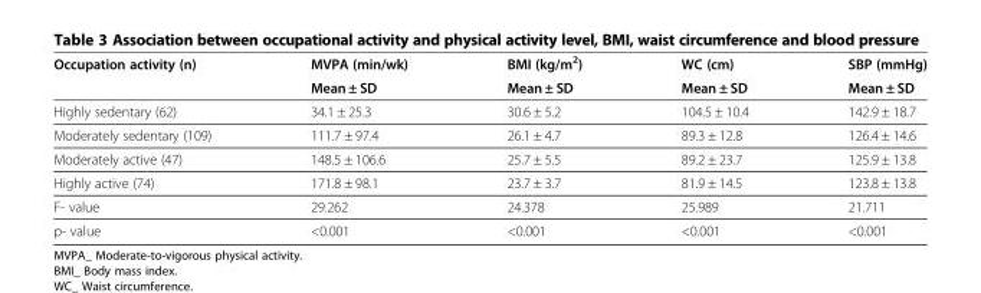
<table><thead><tr><td rowspan="2">Occupation activity (n)</td><td rowspan="2">MVPA (min/wk) Mean ± SD</td><td rowspan="2">BMI (kg/m<sup>2</sup>) Mean ± SD</td><td rowspan="2">WC (cm) Mean ± SD</td><td rowspan="2">SBP (mmHg) Mean ± SD</td></tr><tr></tr></thead><tbody><tr><td>Highly sedentary (62)</td><td>34.1 ± 25.3</td><td>30.6 ± 5.2</td><td>104.5 ± 10.4</td><td>142.9 ± 18.7</td></tr><tr><td>Moderately sedentary (109)</td><td>111.7 ± 97.4</td><td>26.1 ± 4.7</td><td>89.3 ± 12.8</td><td>126.4 ± 14.6</td></tr><tr><td>Moderately active (47)</td><td>148.5 ± 106.6</td><td>25.7 ± 5.5</td><td>89.2 ± 23.7</td><td>125.9 ± 13.8</td></tr><tr><td>Highly active (74)</td><td>171.8 ± 98.1</td><td>23.7 ± 3.7</td><td>81.9 ± 14.5</td><td>123.8 ± 13.8</td></tr><tr><td>F- value</td><td>29.262</td><td>24.378</td><td>25.989</td><td>21.711</td></tr><tr><td>p- value</td><td>&lt;0.001</td><td>&lt;0.001</td><td>&lt;0.001</td><td>&lt;0.001</td></tr></tbody></table>